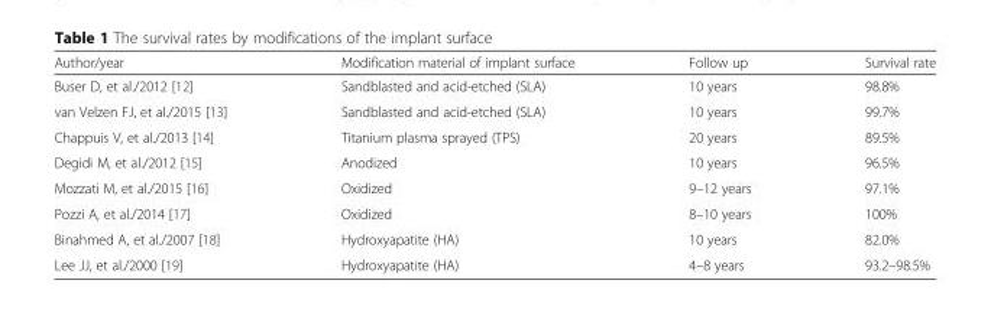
<table><thead><tr><td>Author/year</td><td>Modification material of implant surface</td><td>Follow up</td><td>Survival rate</td></tr></thead><tbody><tr><td>Buser D, et al./2012 [12]</td><td>Sandblasted and acid-etched (SLA)</td><td>10 years</td><td>98.8%</td></tr><tr><td>van Velzen FJ, et al./2015 [13]</td><td>Sandblasted and acid-etched (SLA)</td><td>10 years</td><td>99.7%</td></tr><tr><td>Chappuis V, et al./2013 [14]</td><td>Titanium plasma sprayed (TPS)</td><td>20 years</td><td>89.5%</td></tr><tr><td>Degidi M, et al./2012 [15]</td><td>Anodized</td><td>10 years</td><td>96.5%</td></tr><tr><td>Mozzati M, et al./2015 [16]</td><td>Oxidized</td><td>9–12 years</td><td>97.1%</td></tr><tr><td>Pozzi A, et al./2014 [17]</td><td>Oxidized</td><td>8–10 years</td><td>100%</td></tr><tr><td>Binahmed A, et al./2007 [18]</td><td>Hydroxyapatite (HA)</td><td>10 years</td><td>82.0%</td></tr><tr><td>Lee JJ, et al./2000 [19]</td><td>Hydroxyapatite (HA)</td><td>4–8 years</td><td>93.2–98.5%</td></tr></tbody></table>